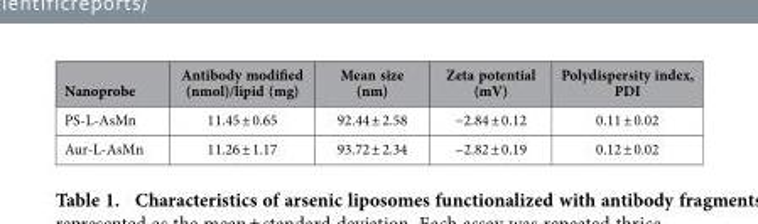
<table><thead><tr><td>Nanoprobe</td><td>Antibody modified (nmol)/lipid (mg)</td><td>Mean size (nm)</td><td>Zeta potential (mV)</td><td>Polydispersity index, PDI</td></tr></thead><tbody><tr><td>PS-L-AsMn</td><td>11.45 ± 0.65</td><td>92.44 ± 2.58</td><td>−2.84 ± 0.12</td><td>0.11 ± 0.02</td></tr><tr><td>Aur-L-AsMn</td><td>11.26 ± 1.17</td><td>93.72 ± 2.34</td><td>−2.82 ± 0.19</td><td>0.12 ± 0.02</td></tr></tbody></table>